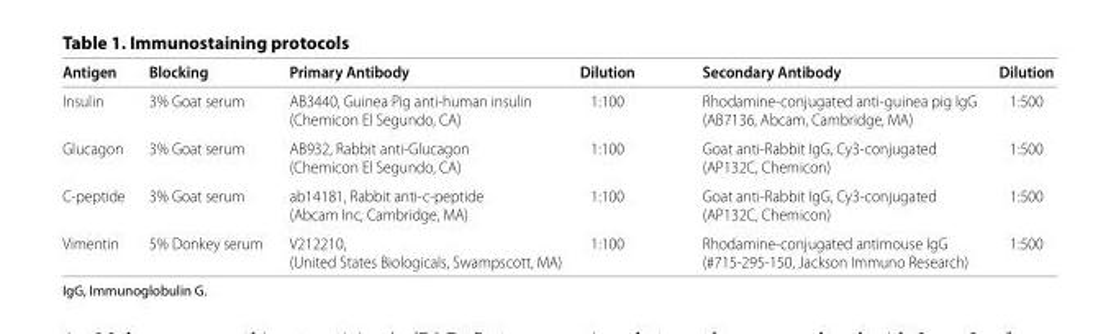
<table><thead><tr><td>Antigen</td><td>Blocking</td><td>Primary Antibody</td><td>Dilution</td><td>Secondary Antibody</td><td>Dilution</td></tr></thead><tbody><tr><td>Insulin</td><td>3% Goat serum</td><td>AB3440, Guinea Pig anti-human insulin (Chemicon El Segundo, CA)</td><td>1:100</td><td>Rhodamine-conjugated anti-guinea pig IgG (AB7136, Abcam, Cambridge, MA)</td><td>1:500</td></tr><tr><td>Glucagon</td><td>3% Goat serum</td><td>AB932, Rabbit anti-Glucagon (Chemicon El Segundo, CA)</td><td>1:100</td><td>Goat anti-Rabbit IgG, Cy3-conjugated (AP132C, Chemicon)</td><td>1:500</td></tr><tr><td>C-peptide</td><td>3% Goat serum</td><td>ab14181, Rabbit anti-c-peptide (Abcam Inc, Cambridge, MA)</td><td>1:100</td><td>Goat anti-Rabbit IgG, Cy3-conjugated (AP132C, Chemicon)</td><td>1:500</td></tr><tr><td>Vimentin</td><td>5% Donkey serum</td><td>V212210, (United States Biologicals, Swampscott, MA)</td><td>1:100</td><td>Rhodamine-conjugated antimouse IgG (#715-295-150, Jackson Immuno Research)</td><td>1:500</td></tr></tbody></table>